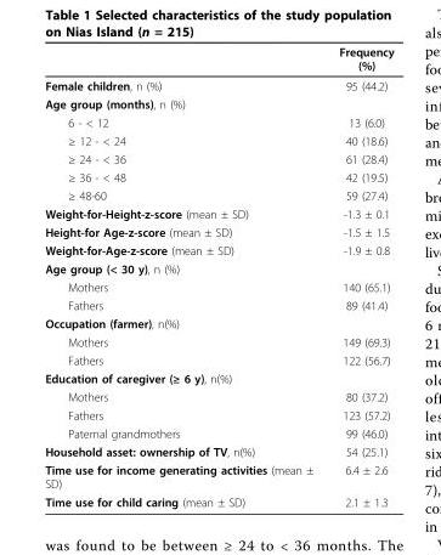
<table><thead><tr><td></td><td>Frequency (%)</td></tr></thead><tbody><tr><td>Female children, n (%)</td><td>95 (44.2)</td></tr><tr><td colspan="2">Age group (months), n (%)</td></tr><tr><td>6 - &lt; 12</td><td>13 (6.0)</td></tr><tr><td>≥ 12 - &lt; 24</td><td>40 (18.6)</td></tr><tr><td>≥ 24 - &lt; 36</td><td>61 (28.4)</td></tr><tr><td>≥ 36 - &lt; 48</td><td>42 (19.5)</td></tr><tr><td>≥ 48-60</td><td>59 (27.4)</td></tr><tr><td>Weight-for-Height-z-score (mean ± SD)</td><td>-1.3 ± 0.1</td></tr><tr><td>Height-for Age-z-score (mean ± SD)</td><td>-1.5 ± 1.5</td></tr><tr><td>Weight-for-Age-z-score (mean ± SD)</td><td>-1.9 ± 0.8</td></tr><tr><td colspan="2">Age group (&lt; 30 y), n (%)</td></tr><tr><td>Mothers</td><td>140 (65.1)</td></tr><tr><td>Fathers</td><td>89 (41.4)</td></tr><tr><td colspan="2">Occupation (farmer), n(%)</td></tr><tr><td>Mothers</td><td>149 (69.3)</td></tr><tr><td>Fathers</td><td>122 (56.7)</td></tr><tr><td colspan="2">Education of caregiver (≥ 6 y), n(%)</td></tr><tr><td>Mothers</td><td>80 (37.2)</td></tr><tr><td>Fathers</td><td>123 (57.2)</td></tr><tr><td>Paternal grandmothers</td><td>99 (46.0)</td></tr><tr><td>Household asset: ownership of TV, n(%)</td><td>54 (25.1)</td></tr><tr><td>Time use for income generating activities (mean ± SD)</td><td>6.4 ± 2.6</td></tr><tr><td>Time use for child caring (mean ± SD)</td><td>2.1 ± 1.3</td></tr></tbody></table>